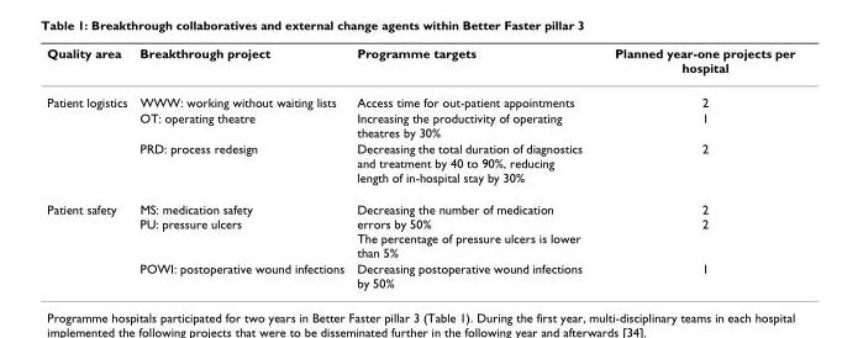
<table><thead><tr><td>Quality area</td><td>Breakthrough project</td><td>Programme targets</td><td>Planned year-one projects per hospital</td></tr></thead><tbody><tr><td rowspan="3">Patient logistics</td><td>WWW: working without waiting lists</td><td>Access time for out-patient appointments</td><td>2</td></tr><tr><td>OT: operating theatre</td><td>Increasing the productivity of operating theatres by 30%</td><td>1</td></tr><tr><td>PRD: process redesign</td><td>Decreasing the total duration of diagnostics and treatment by 40 to 90%, reducing length of in-hospital stay by 30%</td><td>2</td></tr><tr><td rowspan="2">Patient safety</td><td>MS: medication safety PU: pressure ulcers</td><td>Decreasing the number of medication errors by 50% The percentage of pressure ulcers is lower than 5%</td><td>2 2</td></tr><tr><td>POWI: postoperative wound infections</td><td>Decreasing postoperative wound infections by 50%</td><td>1</td></tr></tbody></table>